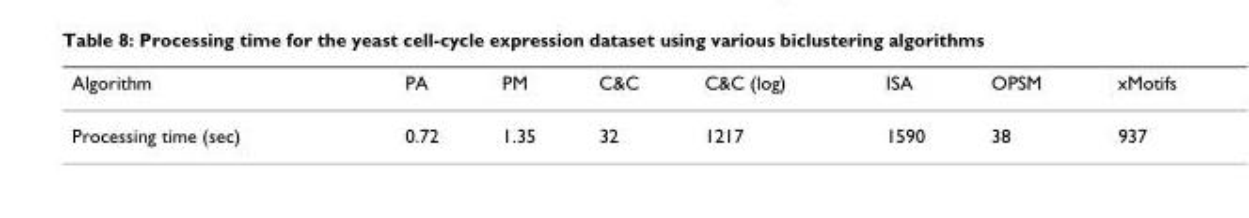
<table><thead><tr><td>Algorithm</td><td>PA</td><td>PM</td><td>C&amp;C</td><td>C&amp;C (log)</td><td>ISA</td><td>OPSM</td><td>xMotifs</td></tr></thead><tbody><tr><td>Processing time (sec)</td><td>0.72</td><td>1.35</td><td>32</td><td>1217</td><td>1590</td><td>38</td><td>937</td></tr></tbody></table>